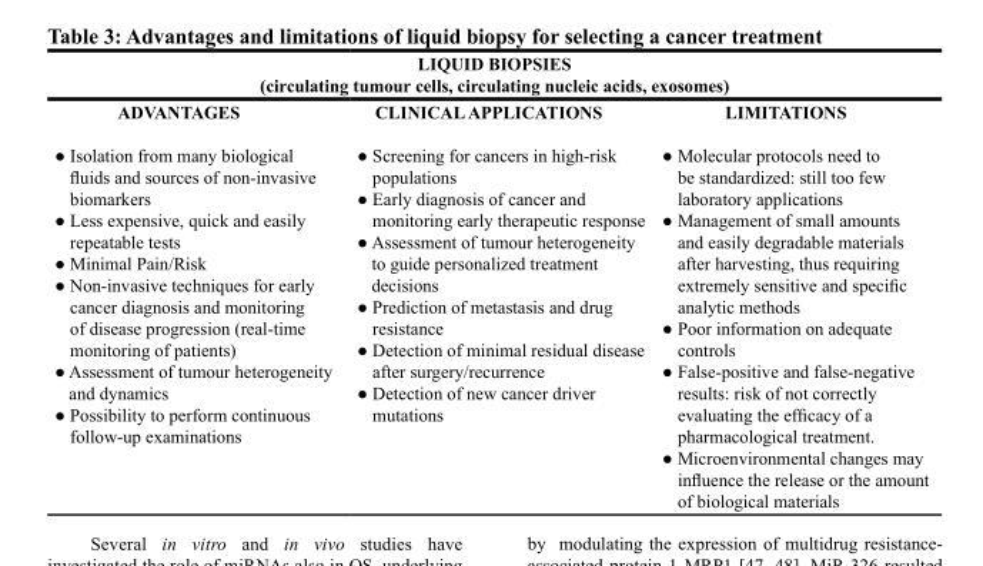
<table><thead><tr><td colspan="3">LIQUID BIOPSIES (circulating tumour cells, circulating nucleic acids, exosomes)</td></tr><tr><td>ADVANTAGES ● Isolation from many biological fluids and sources of non-invasive biomarkers ● Less expensive, quick and easily repeatable tests ● Minimal Pain/Risk ● Non-invasive techniques for early cancer diagnosis and monitoring of disease progression (real-time monitoring of patients) ● Assessment of tumour heterogeneity and dynamics ● Possibility to perform continuous follow-up examinations</td><td>CLINICAL APPLICATIONS ● Screening for cancers in high-risk populations ● Early diagnosis of cancer and monitoring early therapeutic response ● Assessment of tumour heterogeneity to guide personalized treatment decisions ● Prediction of metastasis and drug resistance ● Detection of minimal residual disease after surgery/recurrence ● Detection of new cancer driver mutations</td><td>LIMITATIONS ● Molecular protocols need to be standardized: still too few laboratory applications ● Management of small amounts and easily degradable materials after harvesting, thus requiring extremely sensitive and specific analytic methods ● Poor information on adequate controls ● False-positive and false-negative results: risk of not correctly evaluating the efficacy of a pharmacological treatment. ● Microenvironmental changes may influence the release or the amount of biological materials</td></tr></thead><tbody></tbody></table>